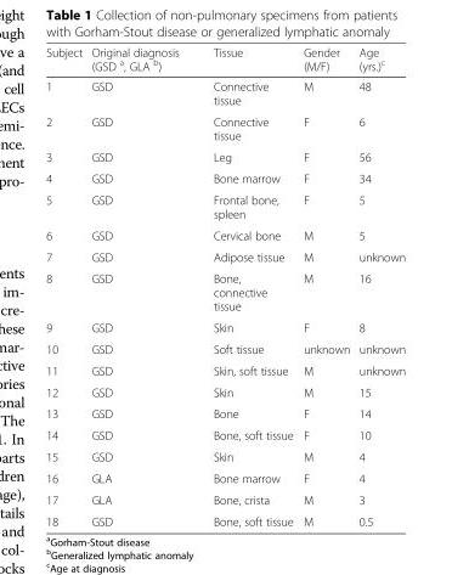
<table><thead><tr><td>Subject</td><td>Original diagnosis (GSD <sup>a</sup>, GLA <sup>b</sup>)</td><td>Tissue</td><td>Gender (M/F)</td><td>Age (yrs.)<sup>c</sup></td></tr></thead><tbody><tr><td>1</td><td>GSD</td><td>Connective tissue</td><td>M</td><td>48</td></tr><tr><td>2</td><td>GSD</td><td>Connective tissue</td><td>F</td><td>6</td></tr><tr><td>3</td><td>GSD</td><td>Leg</td><td>F</td><td>56</td></tr><tr><td>4</td><td>GSD</td><td>Bone marrow</td><td>F</td><td>34</td></tr><tr><td>5</td><td>GSD</td><td>Frontal bone, spleen</td><td>F</td><td>5</td></tr><tr><td>6</td><td>GSD</td><td>Cervical bone</td><td>M</td><td>5</td></tr><tr><td>7</td><td>GSD</td><td>Adipose tissue</td><td>M</td><td>unknown</td></tr><tr><td>8</td><td>GSD</td><td>Bone, connective tissue</td><td>M</td><td>16</td></tr><tr><td>9</td><td>GSD</td><td>Skin</td><td>F</td><td>8</td></tr><tr><td>10</td><td>GSD</td><td>Soft tissue</td><td>unknown</td><td>unknown</td></tr><tr><td>11</td><td>GSD</td><td>Skin, soft tissue</td><td>M</td><td>unknown</td></tr><tr><td>12</td><td>GSD</td><td>Skin</td><td>M</td><td>15</td></tr><tr><td>13</td><td>GSD</td><td>Bone</td><td>F</td><td>14</td></tr><tr><td>14</td><td>GSD</td><td>Bone, soft tissue</td><td>F</td><td>10</td></tr><tr><td>15</td><td>GSD</td><td>Skin</td><td>M</td><td>4</td></tr><tr><td>16</td><td>GLA</td><td>Bone marrow</td><td>F</td><td>4</td></tr><tr><td>17</td><td>GLA</td><td>Bone, crista</td><td>M</td><td>3</td></tr><tr><td>18</td><td>GSD</td><td>Bone, soft tissue</td><td>M</td><td>0.5</td></tr></tbody></table>